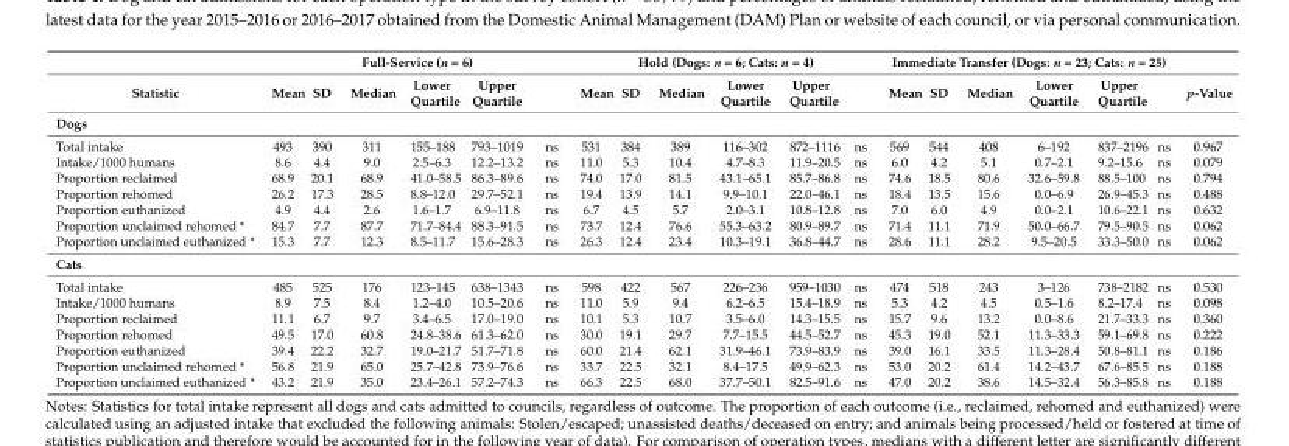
<table><thead><tr><td rowspan="2">Statistic</td><td colspan="6">Full-Service (n = 6)</td><td colspan="6">Hold (Dogs: n = 6; Cats: n = 4)</td><td colspan="6">Immediate Transfer (Dogs: n = 23; Cats: n = 25)</td><td rowspan="2">p-Value</td></tr><tr><td>Mean</td><td>SD</td><td>Median</td><td>Lower Quartile</td><td>Upper Quartile</td><td></td><td>Mean</td><td>SD</td><td>Median</td><td>Lower Quartile</td><td>Upper Quartile</td><td></td><td>Mean</td><td>SD</td><td>Median</td><td>Lower Quartile</td><td>Upper Quartile</td><td></td></tr></thead><tbody><tr><td colspan="20">Dogs</td></tr><tr><td>Total intake</td><td>493</td><td>390</td><td>311</td><td>155–188</td><td>793–1019</td><td>ns</td><td>531</td><td>384</td><td>389</td><td>116–302</td><td>872–1116</td><td>ns</td><td>569</td><td>544</td><td>408</td><td>6–192</td><td>837–2196</td><td>ns</td><td>0.967</td></tr><tr><td>Intake/1000 humans</td><td>8.6</td><td>4.4</td><td>9.0</td><td>2.5–6.3</td><td>12.2–13.2</td><td>ns</td><td>11.0</td><td>5.3</td><td>10.4</td><td>4.7–8.3</td><td>11.9–20.5</td><td>ns</td><td>6.0</td><td>4.2</td><td>5.1</td><td>0.7–2.1</td><td>9.2–15.6</td><td>ns</td><td>0.079</td></tr><tr><td>Proportion reclaimed</td><td>68.9</td><td>20.1</td><td>68.9</td><td>41.0–58.5</td><td>86.3–89.6</td><td>ns</td><td>74.0</td><td>17.0</td><td>81.5</td><td>43.1–65.1</td><td>85.7–86.8</td><td>ns</td><td>74.6</td><td>18.5</td><td>80.6</td><td>32.6–59.8</td><td>88.5–100</td><td>ns</td><td>0.794</td></tr><tr><td>Proportion rehomed</td><td>26.2</td><td>17.3</td><td>28.5</td><td>8.8–12.0</td><td>29.7–52.1</td><td>ns</td><td>19.4</td><td>13.9</td><td>14.1</td><td>9.9–10.1</td><td>22.0–46.1</td><td>ns</td><td>18.4</td><td>13.5</td><td>15.6</td><td>0.0–6.9</td><td>26.9–45.3</td><td>ns</td><td>0.488</td></tr><tr><td>Proportion euthanized</td><td>4.9</td><td>4.4</td><td>2.6</td><td>1.6–1.7</td><td>6.9–11.8</td><td>ns</td><td>6.7</td><td>4.5</td><td>5.7</td><td>2.0–3.1</td><td>10.8–12.8</td><td>ns</td><td>7.0</td><td>6.0</td><td>4.9</td><td>0.0–2.1</td><td>10.6–22.1</td><td>ns</td><td>0.632</td></tr><tr><td>Proportion unclaimed rehomed *</td><td>84.7</td><td>7.7</td><td>87.7</td><td>71.7–84.4</td><td>88.3–91.5</td><td>ns</td><td>73.7</td><td>12.4</td><td>76.6</td><td>55.3–63.2</td><td>80.9–89.7</td><td>ns</td><td>71.4</td><td>11.1</td><td>71.9</td><td>50.0–66.7</td><td>79.5–90.5</td><td>ns</td><td>0.062</td></tr><tr><td>Proportion unclaimed euthanized *</td><td>15.3</td><td>7.7</td><td>12.3</td><td>8.5–11.7</td><td>15.6–28.3</td><td>ns</td><td>26.3</td><td>12.4</td><td>23.4</td><td>10.3–19.1</td><td>36.8–44.7</td><td>ns</td><td>28.6</td><td>11.1</td><td>28.2</td><td>9.5–20.5</td><td>33.3–50.0</td><td>ns</td><td>0.062</td></tr><tr><td colspan="20">Cats</td></tr><tr><td>Total intake</td><td>485</td><td>525</td><td>176</td><td>123–145</td><td>638–1343</td><td>ns</td><td>598</td><td>422</td><td>567</td><td>226–236</td><td>959–1030</td><td>ns</td><td>474</td><td>518</td><td>243</td><td>3–126</td><td>738–2182</td><td>ns</td><td>0.530</td></tr><tr><td>Intake/1000 humans</td><td>8.9</td><td>7.5</td><td>8.4</td><td>1.2–4.0</td><td>10.5–20.6</td><td>ns</td><td>11.0</td><td>5.9</td><td>9.4</td><td>6.2–6.5</td><td>15.4–18.9</td><td>ns</td><td>5.3</td><td>4.2</td><td>4.5</td><td>0.5–1.6</td><td>8.2–17.4</td><td>ns</td><td>0.098</td></tr><tr><td>Proportion reclaimed</td><td>11.1</td><td>6.7</td><td>9.7</td><td>3.4–6.5</td><td>17.0–19.0</td><td>ns</td><td>10.1</td><td>5.3</td><td>10.7</td><td>3.5–6.0</td><td>14.3–15.5</td><td>ns</td><td>15.7</td><td>9.6</td><td>13.2</td><td>0.0–8.6</td><td>21.7–33.3</td><td>ns</td><td>0.360</td></tr><tr><td>Proportion rehomed</td><td>49.5</td><td>17.0</td><td>60.8</td><td>24.8–38.6</td><td>61.3–62.0</td><td>ns</td><td>30.0</td><td>19.1</td><td>29.7</td><td>7.7–15.5</td><td>44.5–52.7</td><td>ns</td><td>45.3</td><td>19.0</td><td>52.1</td><td>11.3–33.3</td><td>59.1–69.8</td><td>ns</td><td>0.222</td></tr><tr><td>Proportion euthanized</td><td>39.4</td><td>22.2</td><td>32.7</td><td>19.0–21.7</td><td>51.7–71.8</td><td>ns</td><td>60.0</td><td>21.4</td><td>62.1</td><td>31.9–46.1</td><td>73.9–83.9</td><td>ns</td><td>39.0</td><td>16.1</td><td>33.5</td><td>11.3–28.4</td><td>50.8–81.1</td><td>ns</td><td>0.186</td></tr><tr><td>Proportion unclaimed rehomed *</td><td>56.8</td><td>21.9</td><td>65.0</td><td>25.7–42.8</td><td>73.9–76.6</td><td>ns</td><td>33.7</td><td>22.5</td><td>32.1</td><td>8.4–17.5</td><td>49.9–62.3</td><td>ns</td><td>53.0</td><td>20.2</td><td>61.4</td><td>14.2–43.7</td><td>67.6–85.5</td><td>ns</td><td>0.188</td></tr><tr><td>Proportion unclaimed euthanized *</td><td>43.2</td><td>21.9</td><td>35.0</td><td>23.4–26.1</td><td>57.2–74.3</td><td>ns</td><td>66.3</td><td>22.5</td><td>68.0</td><td>37.7–50.1</td><td>82.5–91.6</td><td>ns</td><td>47.0</td><td>20.2</td><td>38.6</td><td>14.5–32.4</td><td>56.3–85.8</td><td>ns</td><td>0.188</td></tr></tbody></table>